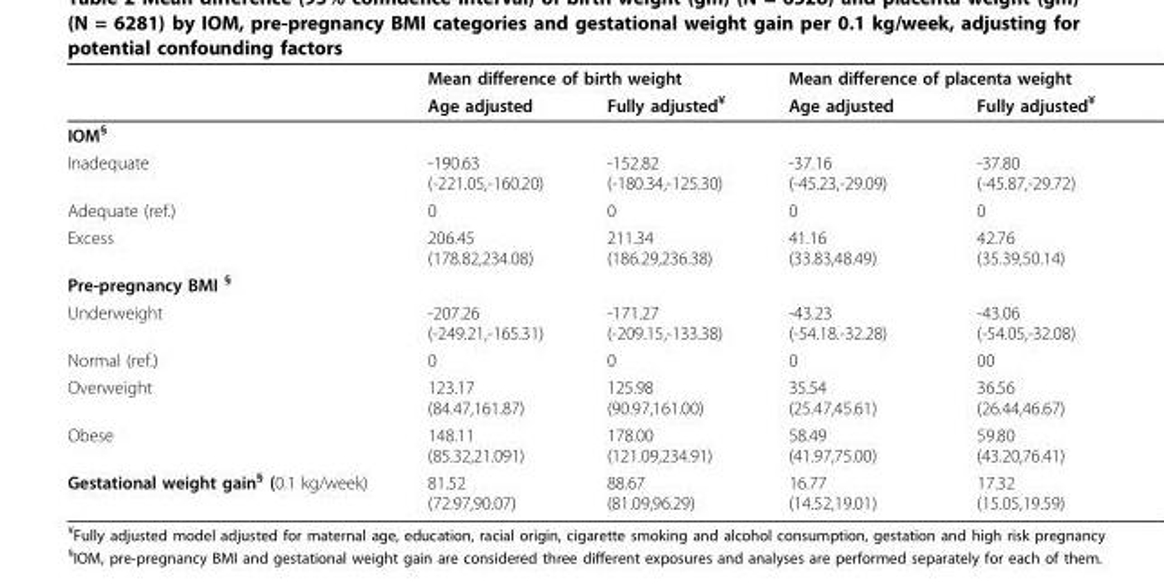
<table><thead><tr><td rowspan="2"></td><td colspan="2">Mean difference of birth weight</td><td colspan="2">Mean difference of placenta weight</td></tr><tr><td>Age adjusted</td><td>Fully adjusted<sup>¥</sup></td><td>Age adjusted</td><td>Fully adjusted<sup>¥</sup></td></tr></thead><tbody><tr><td colspan="5">IOM<sup>§</sup></td></tr><tr><td>Inadequate</td><td>-190.63 (-221.05,-160.20)</td><td>-152.82 (-180.34,-125.30)</td><td>-37.16 (-45.23,-29.09)</td><td>-37.80 (-45.87,-29.72)</td></tr><tr><td>Adequate (ref.)</td><td>0</td><td>0</td><td>0</td><td>0</td></tr><tr><td>Excess</td><td>206.45 (178.82,234.08)</td><td>211.34 (186.29,236.38)</td><td>41.16 (33.83,48.49)</td><td>42.76 (35.39,50.14)</td></tr><tr><td colspan="5">Pre-pregnancy BMI <sup>§</sup></td></tr><tr><td>Underweight</td><td>-207.26 (-249.21,-165.31)</td><td>-171.27 (-209.15,-133.38)</td><td>-43.23 (-54.18.-32.28)</td><td>-43.06 (-54.05,-32.08)</td></tr><tr><td>Normal (ref.)</td><td>0</td><td>0</td><td>0</td><td>00</td></tr><tr><td>Overweight</td><td>123.17 (84.47,161.87)</td><td>125.98 (90.97,161.00)</td><td>35.54 (25.47,45.61)</td><td>36.56 (26.44,46.67)</td></tr><tr><td>Obese</td><td>148.11 (85.32,21.091)</td><td>178.00 (121.09,234.91)</td><td>58.49 (41.97,75.00)</td><td>59.80 (43.20,76.41)</td></tr><tr><td>Gestational weight gain<sup>§</sup> (0.1 kg/week)</td><td>81.52 (72.97,90.07)</td><td>88.67 (81.09,96.29)</td><td>16.77 (14.52,19.01)</td><td>17.32 (15.05,19.59)</td></tr></tbody></table>